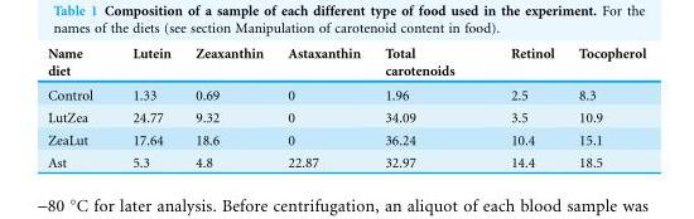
<table><thead><tr><td>Name diet</td><td>Lutein</td><td>Zeaxanthin</td><td>Astaxanthin</td><td>Total carotenoids</td><td>Retinol</td><td>Tocopherol</td></tr></thead><tbody><tr><td>Control</td><td>1.33</td><td>0.69</td><td>0</td><td>1.96</td><td>2.5</td><td>8.3</td></tr><tr><td>LutZea</td><td>24.77</td><td>9.32</td><td>0</td><td>34.09</td><td>3.5</td><td>10.9</td></tr><tr><td>ZeaLut</td><td>17.64</td><td>18.6</td><td>0</td><td>36.24</td><td>10.4</td><td>15.1</td></tr><tr><td>Ast</td><td>5.3</td><td>4.8</td><td>22.87</td><td>32.97</td><td>14.4</td><td>18.5</td></tr></tbody></table>